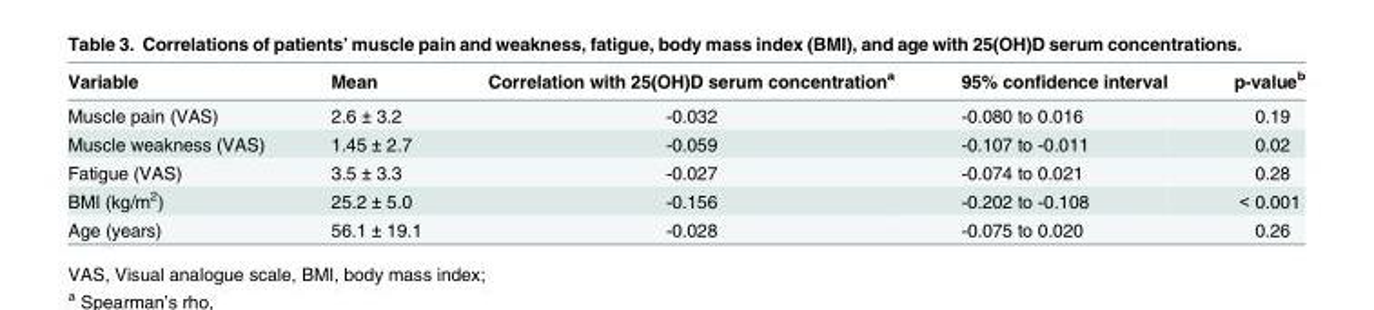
<table><thead><tr><td>Variable</td><td>Mean</td><td>Correlation with 25(OH)D serum concentration<sup>a</sup></td><td>95% confidence interval</td><td>p-value<sup>b</sup></td></tr></thead><tbody><tr><td>Muscle pain (VAS)</td><td>2.6 ± 3.2</td><td>-0.032</td><td>-0.080 to 0.016</td><td>0.19</td></tr><tr><td>Muscle weakness (VAS)</td><td>1.45 ± 2.7</td><td>-0.059</td><td>-0.107 to -0.011</td><td>0.02</td></tr><tr><td>Fatigue (VAS)</td><td>3.5 ± 3.3</td><td>-0.027</td><td>-0.074 to 0.021</td><td>0.28</td></tr><tr><td>BMI (kg/m<sup>2</sup>)</td><td>25.2 ± 5.0</td><td>-0.156</td><td>-0.202 to -0.108</td><td>&lt; 0.001</td></tr><tr><td>Age (years)</td><td>56.1 ± 19.1</td><td>-0.028</td><td>-0.075 to 0.020</td><td>0.26</td></tr></tbody></table>